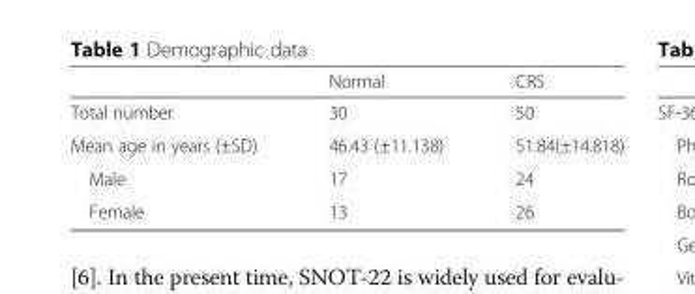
<table><thead><tr><td></td><td>Normal</td><td>CRS</td></tr></thead><tbody><tr><td>Total number</td><td>30</td><td>50</td></tr><tr><td>Mean age in years (±SD)</td><td>46.43 (±11.138)</td><td>51.84(±14.818)</td></tr><tr><td>Male</td><td>17</td><td>24</td></tr><tr><td>Female</td><td>13</td><td>26</td></tr></tbody></table>